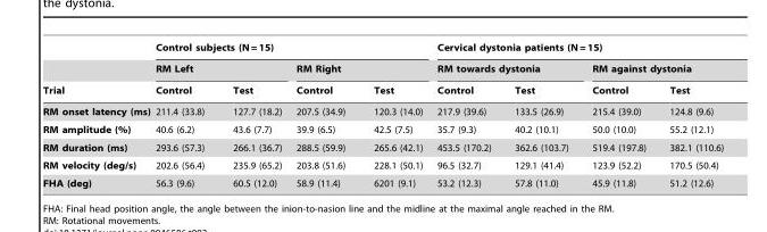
<table><thead><tr><td rowspan="3">Trial</td><td colspan="4">Control subjects (N = 15)</td><td colspan="4">Cervical dystonia patients (N = 15)</td></tr><tr><td colspan="2">RM Left</td><td colspan="2">RM Right</td><td colspan="2">RM towards dystonia</td><td colspan="2">RM against dystonia</td></tr><tr><td>Control</td><td>Test</td><td>Control</td><td>Test</td><td>Control</td><td>Test</td><td>Control</td><td>Test</td></tr></thead><tbody><tr><td>RM onset latency (ms)</td><td>211.4 (33.8)</td><td>127.7 (18.2)</td><td>207.5 (34.9)</td><td>120.3 (14.0)</td><td>217.9 (39.6)</td><td>133.5 (26.9)</td><td>215.4 (39.0)</td><td>124.8 (9.6)</td></tr><tr><td>RM amplitude (%)</td><td>40.6 (6.2)</td><td>43.6 (7.7)</td><td>39.9 (6.5)</td><td>42.5 (7.5)</td><td>35.7 (9.3)</td><td>40.2 (10.1)</td><td>50.0 (10.0)</td><td>55.2 (12.1)</td></tr><tr><td>RM duration (ms)</td><td>293.6 (57.3)</td><td>266.1 (36.7)</td><td>288.5 (59.9)</td><td>265.6 (42.1)</td><td>453.5 (170.2)</td><td>362.6 (103.7)</td><td>519.4 (197.8)</td><td>382.1 (110.6)</td></tr><tr><td>RM velocity (deg/s)</td><td>202.6 (56.4)</td><td>235.9 (65.2)</td><td>203.8 (51.6)</td><td>228.1 (50.1)</td><td>96.5 (32.7)</td><td>129.1 (41.4)</td><td>123.9 (52.2)</td><td>170.5 (50.4)</td></tr><tr><td>FHA (deg)</td><td>56.3 (9.6)</td><td>60.5 (12.0)</td><td>58.9 (11.4)</td><td>6201 (9.1)</td><td>53.2 (12.3)</td><td>57.8 (11.0)</td><td>45.9 (11.8)</td><td>51.2 (12.6)</td></tr></tbody></table>